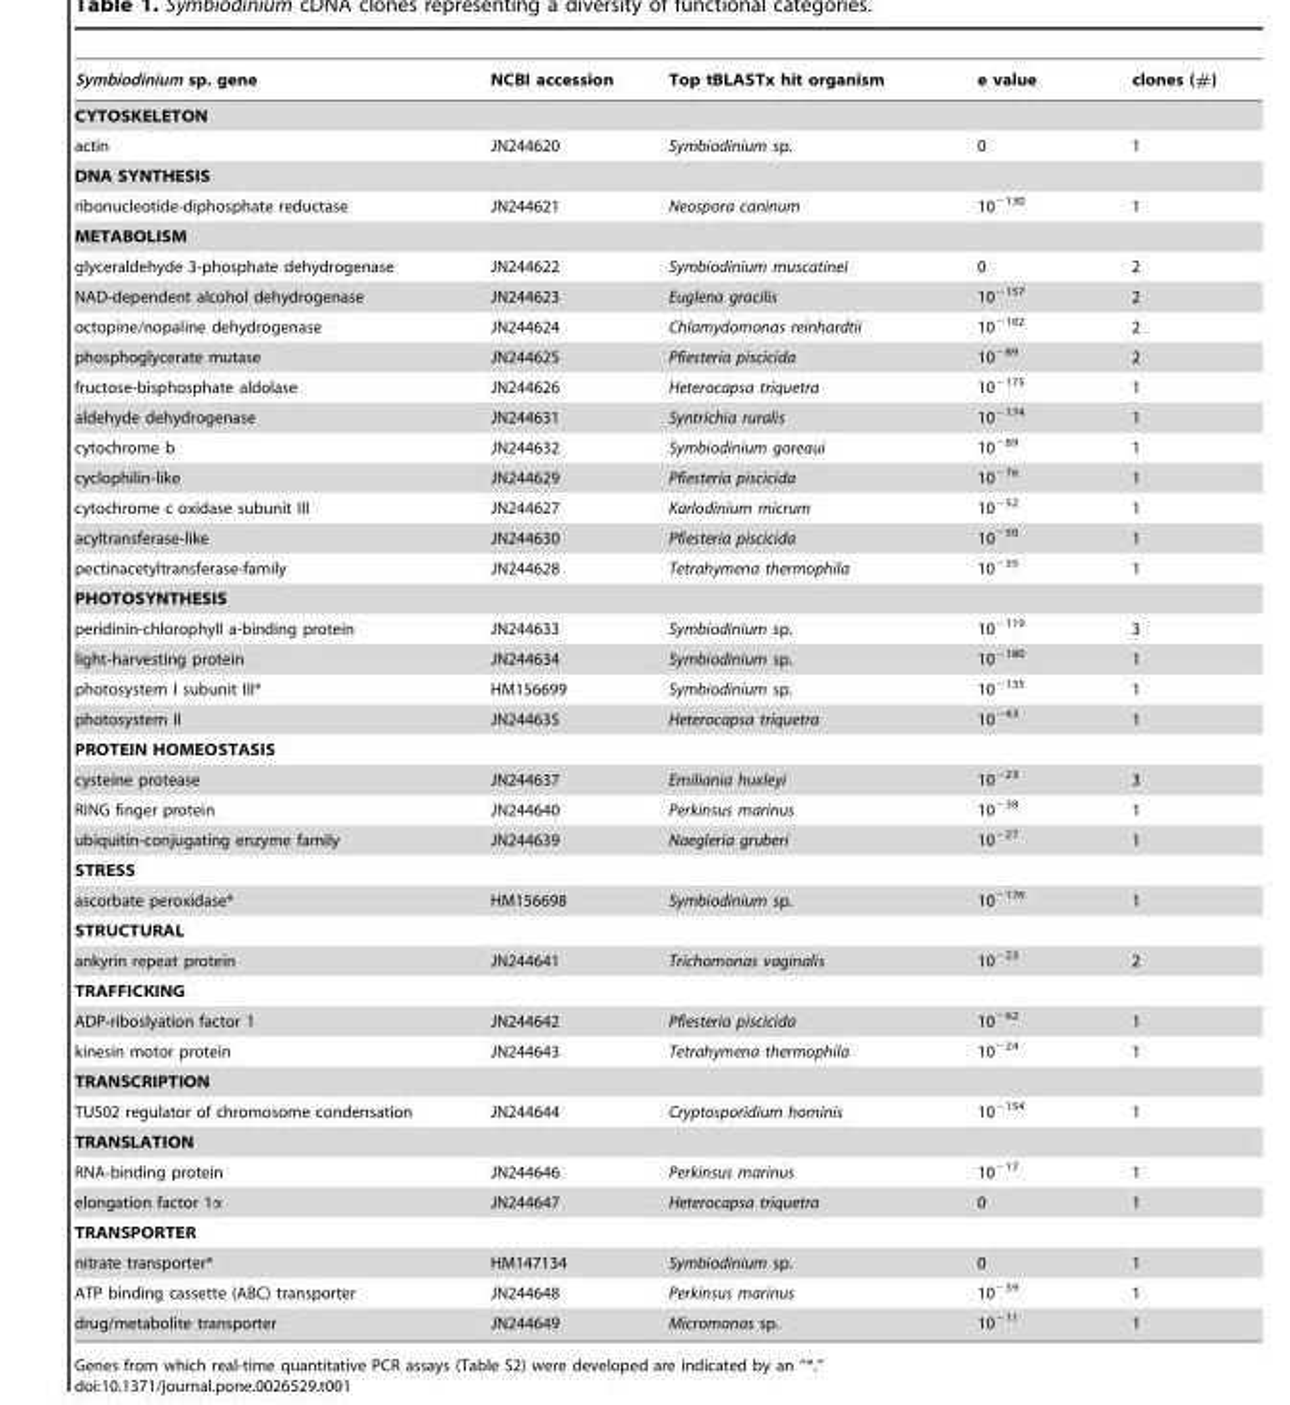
<table><thead><tr><td>Symbiodinium sp. gene</td><td>NCBI accession</td><td>Top tBLASTx hit organism</td><td>e value</td><td>clones (#)</td></tr></thead><tbody><tr><td colspan="5">CYTOSKELETON</td></tr><tr><td>actin</td><td>JN244620</td><td>Symbiodinium sp.</td><td>0</td><td>1</td></tr><tr><td colspan="5">DNA SYNTHESIS</td></tr><tr><td>ribonucleotide-diphosphate reductase</td><td>JN244621</td><td>Neospora caninum</td><td>10<sup>−130</sup></td><td>1</td></tr><tr><td colspan="5">METABOLISM</td></tr><tr><td>glyceraldehyde 3-phosphate dehydrogenase</td><td>JN244622</td><td>Symbiodinium muscatinei</td><td>0</td><td>2</td></tr><tr><td>NAD-dependent alcohol dehydrogenase</td><td>JN244623</td><td>Euglena gracilis</td><td>10<sup>−157</sup></td><td>2</td></tr><tr><td>octopine/nopaline dehydrogenase</td><td>JN244624</td><td>Chlamydomonas reinhardtii</td><td>10<sup>−102</sup></td><td>2</td></tr><tr><td>phosphoglycerate mutase</td><td>JN244625</td><td>Pfiesteria piscicida</td><td>10<sup>−89</sup></td><td>2</td></tr><tr><td>fructose-bisphosphate aldolase</td><td>JN244626</td><td>Heterocapsa triquetra</td><td>10<sup>−175</sup></td><td>1</td></tr><tr><td>aldehyde dehydrogenase</td><td>JN244631</td><td>Syntrichia ruralis</td><td>10<sup>−174</sup></td><td>1</td></tr><tr><td>cytochrome b</td><td>JN244632</td><td>Symbiodinium goreaui</td><td>10<sup>−89</sup></td><td>1</td></tr><tr><td>cyclophilin-like</td><td>JN244629</td><td>Pfiesteria piscicida</td><td>10<sup>−76</sup></td><td>1</td></tr><tr><td>cytochrome c oxidase subunit III</td><td>JN244627</td><td>Karlodinium micrum</td><td>10<sup>−52</sup></td><td>1</td></tr><tr><td>acyltransferase-like</td><td>JN244630</td><td>Pfiesteria piscicida</td><td>10<sup>−50</sup></td><td>1</td></tr><tr><td>pectinacetyltransferase-family</td><td>JN244628</td><td>Tetrahymena thermophila</td><td>10<sup>−35</sup></td><td>1</td></tr><tr><td colspan="5">PHOTOSYNTHESIS</td></tr><tr><td>peridinin-chlorophyll a-binding protein</td><td>JN244633</td><td>Symbiodinium sp.</td><td>10<sup>−119</sup></td><td>3</td></tr><tr><td>light-harvesting protein</td><td>JN244634</td><td>Symbiodinium sp.</td><td>10<sup>−180</sup></td><td>1</td></tr><tr><td>photosystem I subunit III*</td><td>HM156699</td><td>Symbiodinium sp.</td><td>10<sup>−135</sup></td><td>1</td></tr><tr><td>photosystem II</td><td>JN244635</td><td>Heterocapsa triquetra</td><td>10<sup>−43</sup></td><td>1</td></tr><tr><td colspan="5">PROTEIN HOMEOSTASIS</td></tr><tr><td>cysteine protease</td><td>JN244637</td><td>Emiliania huxleyi</td><td>10<sup>−23</sup></td><td>3</td></tr><tr><td>RING finger protein</td><td>JN244640</td><td>Perkinsus marinus</td><td>10<sup>−38</sup></td><td>1</td></tr><tr><td>ubiquitin-conjugating enzyme family</td><td>JN244639</td><td>Naegleria gruberi</td><td>10<sup>−27</sup></td><td>1</td></tr><tr><td colspan="5">STRESS</td></tr><tr><td>ascorbate peroxidase*</td><td>HM156698</td><td>Symbiodinium sp.</td><td>10<sup>−176</sup></td><td>1</td></tr><tr><td colspan="5">STRUCTURAL</td></tr><tr><td>ankyrin repeat protein</td><td>JN244641</td><td>Trichomonas vaginalis</td><td>10<sup>−23</sup></td><td>2</td></tr><tr><td colspan="5">TRAFFICKING</td></tr><tr><td>ADP-riboslyation factor 1</td><td>JN244642</td><td>Pfiesteria piscicida</td><td>10<sup>−62</sup></td><td>1</td></tr><tr><td>kinesin motor protein</td><td>JN244643</td><td>Tetrahymena thermophila</td><td>10<sup>−24</sup></td><td>1</td></tr><tr><td colspan="5">TRANSCRIPTION</td></tr><tr><td>TU502 regulator of chromosome condensation</td><td>JN244644</td><td>Cryptosporidium hominis</td><td>10<sup>−154</sup></td><td>1</td></tr><tr><td colspan="5">TRANSLATION</td></tr><tr><td>RNA-binding protein</td><td>JN244646</td><td>Perkinsus marinus</td><td>10<sup>−17</sup></td><td>1</td></tr><tr><td>elongation factor 1α</td><td>JN244647</td><td>Heterocapsa triquetra</td><td>0</td><td>1</td></tr><tr><td colspan="5">TRANSPORTER</td></tr><tr><td>nitrate transporter*</td><td>HM147134</td><td>Symbiodinium sp.</td><td>0</td><td>1</td></tr><tr><td>ATP binding cassette (ABC) transporter</td><td>JN244648</td><td>Perkinsus marinus</td><td>10<sup>−39</sup></td><td>1</td></tr><tr><td>drug/metabolite transporter</td><td>JN244649</td><td>Micromonas sp.</td><td>10<sup>−11</sup></td><td>1</td></tr></tbody></table>